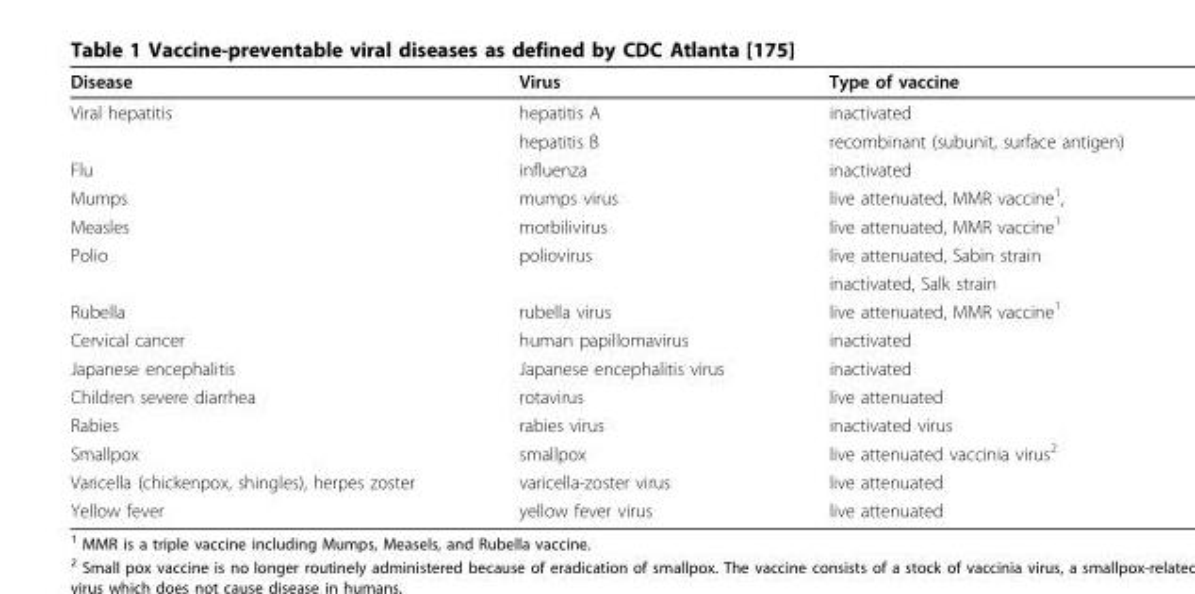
<table><thead><tr><td>Disease</td><td>Virus</td><td>Type of vaccine</td></tr></thead><tbody><tr><td rowspan="2">Viral hepatitis</td><td>hepatitis A</td><td>inactivated</td></tr><tr><td>hepatitis B</td><td>recombinant (subunit, surface antigen)</td></tr><tr><td>Flu</td><td>influenza</td><td>inactivated</td></tr><tr><td>Mumps</td><td>mumps virus</td><td>live attenuated, MMR vaccine<sup>1</sup>,</td></tr><tr><td>Measles</td><td>morbilivirus</td><td>live attenuated, MMR vaccine<sup>1</sup></td></tr><tr><td rowspan="2">Polio</td><td>poliovirus</td><td>live attenuated, Sabin strain</td></tr><tr><td></td><td>inactivated, Salk strain</td></tr><tr><td>Rubella</td><td>rubella virus</td><td>live attenuated, MMR vaccine<sup>1</sup></td></tr><tr><td>Cervical cancer</td><td>human papillomavirus</td><td>inactivated</td></tr><tr><td>Japanese encephalitis</td><td>Japanese encephalitis virus</td><td>inactivated</td></tr><tr><td>Children severe diarrhea</td><td>rotavirus</td><td>live attenuated</td></tr><tr><td>Rabies</td><td>rabies virus</td><td>inactivated virus</td></tr><tr><td>Smallpox</td><td>smallpox</td><td>live attenuated vaccinia virus<sup>2</sup></td></tr><tr><td>Varicella (chickenpox, shingles), herpes zoster</td><td>varicella-zoster virus</td><td>live attenuated</td></tr><tr><td>Yellow fever</td><td>yellow fever virus</td><td>live attenuated</td></tr></tbody></table>